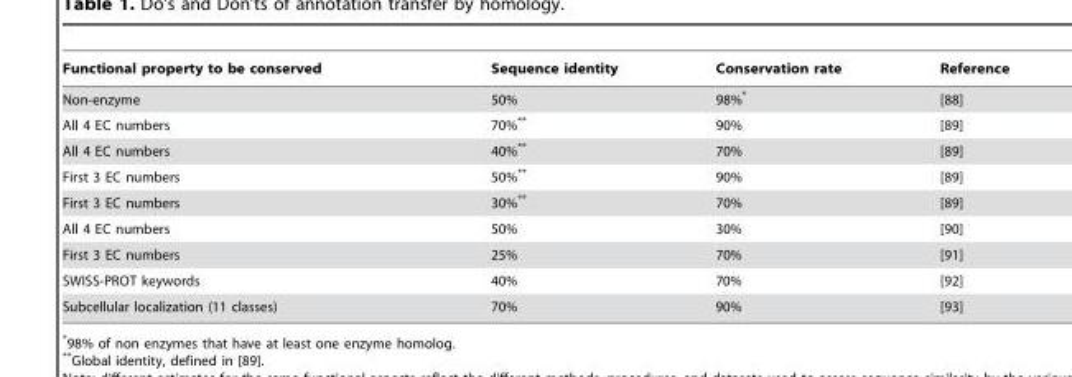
<table><thead><tr><td>Functional property to be conserved</td><td>Sequence identity</td><td>Conservation rate</td><td>Reference</td></tr></thead><tbody><tr><td>Non-enzyme</td><td>50%</td><td>98%*</td><td>[88]</td></tr><tr><td>All 4 EC numbers</td><td>70%**</td><td>90%</td><td>[89]</td></tr><tr><td>All 4 EC numbers</td><td>40%**</td><td>70%</td><td>[89]</td></tr><tr><td>First 3 EC numbers</td><td>50%**</td><td>90%</td><td>[89]</td></tr><tr><td>First 3 EC numbers</td><td>30%**</td><td>70%</td><td>[89]</td></tr><tr><td>All 4 EC numbers</td><td>50%</td><td>30%</td><td>[90]</td></tr><tr><td>First 3 EC numbers</td><td>25%</td><td>70%</td><td>[91]</td></tr><tr><td>SWISS-PROT keywords</td><td>40%</td><td>70%</td><td>[92]</td></tr><tr><td>Subcellular localization (11 classes)</td><td>70%</td><td>90%</td><td>[93]</td></tr></tbody></table>